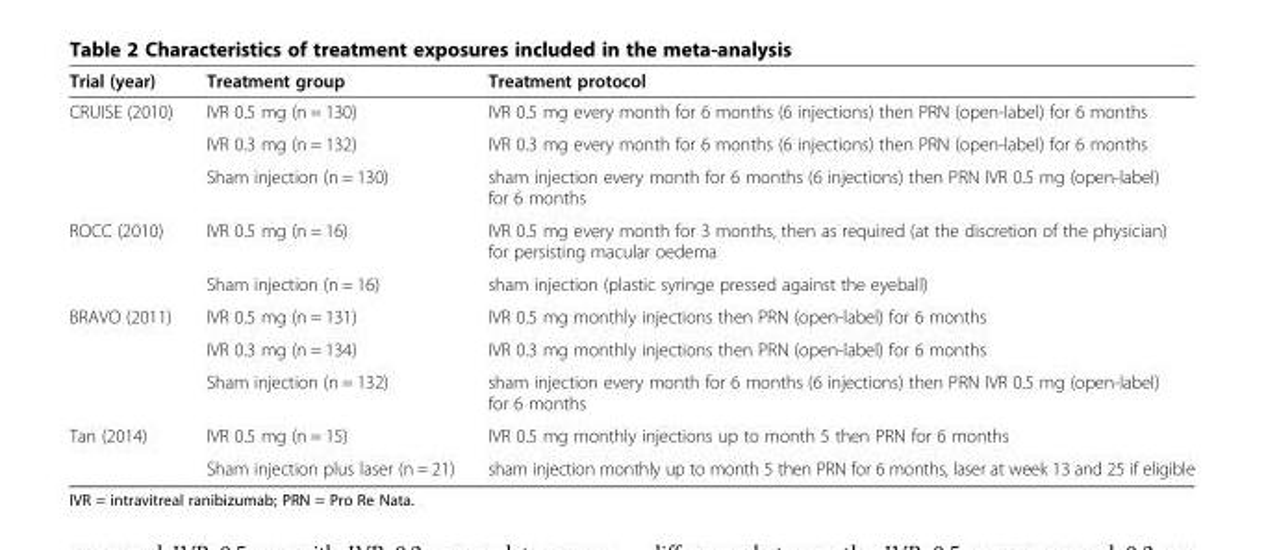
<table><thead><tr><td>Trial (year)</td><td>Treatment group</td><td>Treatment protocol</td></tr></thead><tbody><tr><td rowspan="3">CRUISE (2010)</td><td>IVR 0.5 mg (n = 130)</td><td>IVR 0.5 mg every month for 6 months (6 injections) then PRN (open-label) for 6 months</td></tr><tr><td>IVR 0.3 mg (n = 132)</td><td>IVR 0.3 mg every month for 6 months (6 injections) then PRN (open-label) for 6 months</td></tr><tr><td>Sham injection (n = 130)</td><td>sham injection every month for 6 months (6 injections) then PRN IVR 0.5 mg (open-label) for 6 months</td></tr><tr><td rowspan="2">ROCC (2010)</td><td>IVR 0.5 mg (n = 16)</td><td>IVR 0.5 mg every month for 3 months, then as required (at the discretion of the physician) for persisting macular oedema</td></tr><tr><td>Sham injection (n = 16)</td><td>sham injection (plastic syringe pressed against the eyeball)</td></tr><tr><td rowspan="3">BRAVO (2011)</td><td>IVR 0.5 mg (n = 131)</td><td>IVR 0.5 mg monthly injections then PRN (open-label) for 6 months</td></tr><tr><td>IVR 0.3 mg (n = 134)</td><td>IVR 0.3 mg monthly injections then PRN (open-label) for 6 months</td></tr><tr><td>Sham injection (n = 132)</td><td>sham injection every month for 6 months (6 injections) then PRN IVR 0.5 mg (open-label) for 6 months</td></tr><tr><td rowspan="2">Tan (2014)</td><td>IVR 0.5 mg (n = 15)</td><td>IVR 0.5 mg monthly injections up to month 5 then PRN for 6 months</td></tr><tr><td>Sham injection plus laser (n = 21)</td><td>sham injection monthly up to month 5 then PRN for 6 months, laser at week 13 and 25 if eligible</td></tr></tbody></table>